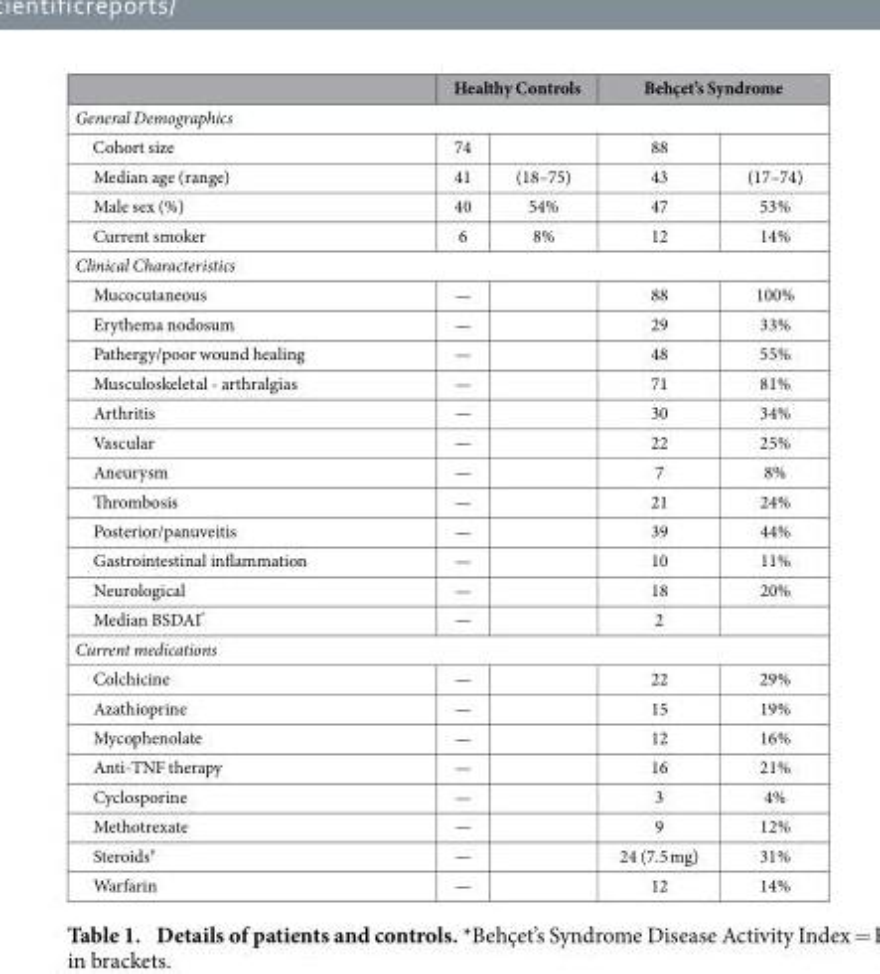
<table><thead><tr><td></td><td colspan="2">Healthy Controls</td><td colspan="2">Behçet’s Syndrome</td></tr><tr><td colspan="5">General Demographics</td></tr><tr><td>Cohort size</td><td>74</td><td></td><td>88</td><td></td></tr></thead><tbody><tr><td>Median age (range)</td><td>41</td><td>(18–75)</td><td>43</td><td>(17–74)</td></tr><tr><td>Male sex (%)</td><td>40</td><td>54%</td><td>47</td><td>53%</td></tr><tr><td>Current smoker</td><td>6</td><td>8%</td><td>12</td><td>14%</td></tr><tr><td colspan="5">Clinical Characteristics</td></tr><tr><td>Mucocutaneous</td><td>—</td><td></td><td>88</td><td>100%</td></tr><tr><td>Erythema nodosum</td><td>—</td><td></td><td>29</td><td>33%</td></tr><tr><td>Pathergy/poor wound healing</td><td>—</td><td></td><td>48</td><td>55%</td></tr><tr><td>Musculoskeletal - arthralgias</td><td>—</td><td></td><td>71</td><td>81%</td></tr><tr><td>Arthritis</td><td>—</td><td></td><td>30</td><td>34%</td></tr><tr><td>Vascular</td><td>—</td><td></td><td>22</td><td>25%</td></tr><tr><td>Aneurysm</td><td>—</td><td></td><td>7</td><td>8%</td></tr><tr><td>Thrombosis</td><td>—</td><td></td><td>21</td><td>24%</td></tr><tr><td>Posterior/panuveitis</td><td>—</td><td></td><td>39</td><td>44%</td></tr><tr><td>Gastrointestinal inflammation</td><td>—</td><td></td><td>10</td><td>11%</td></tr><tr><td>Neurological</td><td>—</td><td></td><td>18</td><td>20%</td></tr><tr><td>Median BSDAI*</td><td>—</td><td></td><td>2</td><td></td></tr><tr><td colspan="5">Current medications</td></tr><tr><td>Colchicine</td><td>—</td><td></td><td>22</td><td>29%</td></tr><tr><td>Azathioprine</td><td>—</td><td></td><td>15</td><td>19%</td></tr><tr><td>Mycophenolate</td><td>—</td><td></td><td>12</td><td>16%</td></tr><tr><td>Anti-TNF therapy</td><td>—</td><td></td><td>16</td><td>21%</td></tr><tr><td>Cyclosporine</td><td>—</td><td></td><td>3</td><td>4%</td></tr><tr><td>Methotrexate</td><td>—</td><td></td><td>9</td><td>12%</td></tr><tr><td>Steroids†</td><td>—</td><td></td><td>24 (7.5 mg)</td><td>31%</td></tr><tr><td>Warfarin</td><td>—</td><td></td><td>12</td><td>14%</td></tr></tbody></table>